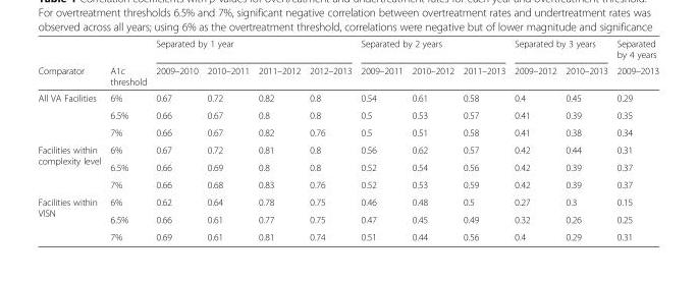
<table><thead><tr><td rowspan="2">Comparator</td><td rowspan="2">A1c threshold</td><td colspan="4">Separated by 1 year</td><td colspan="3">Separated by 2 years</td><td colspan="2">Separated by 3 years</td><td rowspan="2">Separated by 4 years 2009–2013</td></tr><tr><td>2009–2010</td><td>2010–2011</td><td>2011–2012</td><td>2012–2013</td><td>2009–2011</td><td>2010–2012</td><td>2011–2013</td><td>2009–2012</td><td>2010–2013</td></tr></thead><tbody><tr><td rowspan="3">All VA Facilities</td><td>6%</td><td>0.67</td><td>0.72</td><td>0.82</td><td>0.8</td><td>0.54</td><td>0.61</td><td>0.58</td><td>0.4</td><td>0.45</td><td>0.29</td></tr><tr><td>6.5%</td><td>0.66</td><td>0.67</td><td>0.8</td><td>0.8</td><td>0.5</td><td>0.53</td><td>0.57</td><td>0.41</td><td>0.39</td><td>0.35</td></tr><tr><td>7%</td><td>0.66</td><td>0.67</td><td>0.82</td><td>0.76</td><td>0.5</td><td>0.51</td><td>0.58</td><td>0.41</td><td>0.38</td><td>0.34</td></tr><tr><td rowspan="3">Facilities within complexity level</td><td>6%</td><td>0.67</td><td>0.72</td><td>0.81</td><td>0.8</td><td>0.56</td><td>0.62</td><td>0.57</td><td>0.42</td><td>0.44</td><td>0.31</td></tr><tr><td>6.5%</td><td>0.66</td><td>0.69</td><td>0.8</td><td>0.8</td><td>0.52</td><td>0.54</td><td>0.56</td><td>0.42</td><td>0.39</td><td>0.37</td></tr><tr><td>7%</td><td>0.66</td><td>0.68</td><td>0.83</td><td>0.76</td><td>0.52</td><td>0.53</td><td>0.59</td><td>0.42</td><td>0.39</td><td>0.37</td></tr><tr><td rowspan="3">Facilities within VISN</td><td>6%</td><td>0.62</td><td>0.64</td><td>0.78</td><td>0.75</td><td>0.46</td><td>0.48</td><td>0.5</td><td>0.27</td><td>0.3</td><td>0.15</td></tr><tr><td>6.5%</td><td>0.66</td><td>0.61</td><td>0.77</td><td>0.75</td><td>0.47</td><td>0.45</td><td>0.49</td><td>0.32</td><td>0.26</td><td>0.25</td></tr><tr><td>7%</td><td>0.69</td><td>0.61</td><td>0.81</td><td>0.74</td><td>0.51</td><td>0.44</td><td>0.56</td><td>0.4</td><td>0.29</td><td>0.31</td></tr></tbody></table>